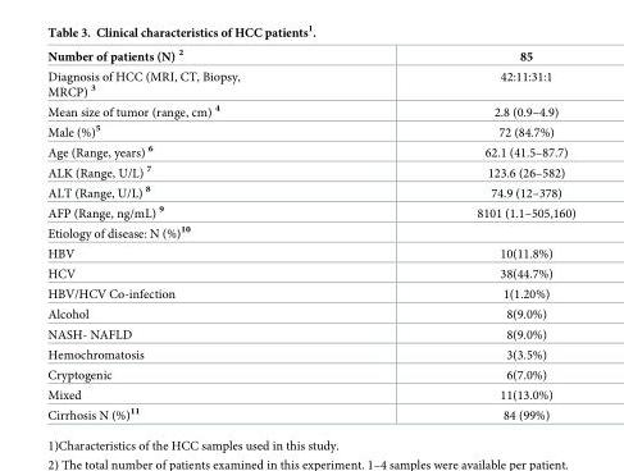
<table><thead><tr><td>Number of patients (N) <sup>2</sup></td><td>85</td></tr></thead><tbody><tr><td>Diagnosis of HCC (MRI, CT, Biopsy, MRCP) <sup>3</sup></td><td>42:11:31:1</td></tr><tr><td>Mean size of tumor (range, cm) <sup>4</sup></td><td>2.8 (0.9–4.9)</td></tr><tr><td>Male (%)<sup>5</sup></td><td>72 (84.7%)</td></tr><tr><td>Age (Range, years) <sup>6</sup></td><td>62.1 (41.5–87.7)</td></tr><tr><td>ALK (Range, U/L) <sup>7</sup></td><td>123.6 (26–582)</td></tr><tr><td>ALT (Range, U/L) <sup>8</sup></td><td>74.9 (12–378)</td></tr><tr><td>AFP (Range, ng/mL) <sup>9</sup></td><td>8101 (1.1–505,160)</td></tr><tr><td colspan="2">Etiology of disease: N (%)<sup>10</sup></td></tr><tr><td>HBV</td><td>10(11.8%)</td></tr><tr><td>HCV</td><td>38(44.7%)</td></tr><tr><td>HBV/HCV Co-infection</td><td>1(1.20%)</td></tr><tr><td>Alcohol</td><td>8(9.0%)</td></tr><tr><td>NASH- NAFLD</td><td>8(9.0%)</td></tr><tr><td>Hemochromatosis</td><td>3(3.5%)</td></tr><tr><td>Cryptogenic</td><td>6(7.0%)</td></tr><tr><td>Mixed</td><td>11(13.0%)</td></tr><tr><td>Cirrhosis N (%)<sup>11</sup></td><td>84 (99%)</td></tr></tbody></table>